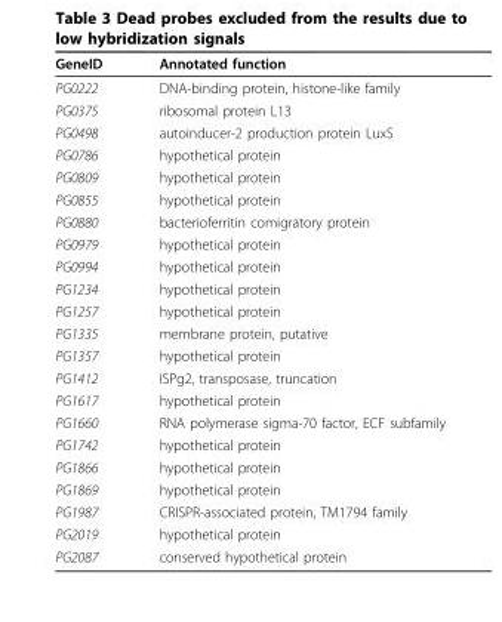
<table><thead><tr><td>GeneID</td><td>Annotated function</td></tr></thead><tbody><tr><td>PG0222</td><td>DNA-binding protein, histone-like family</td></tr><tr><td>PG0375</td><td>ribosomal protein L13</td></tr><tr><td>PG0498</td><td>autoinducer-2 production protein LuxS</td></tr><tr><td>PG0786</td><td>hypothetical protein</td></tr><tr><td>PG0809</td><td>hypothetical protein</td></tr><tr><td>PG0855</td><td>hypothetical protein</td></tr><tr><td>PG0880</td><td>bacterioferritin comigratory protein</td></tr><tr><td>PG0979</td><td>hypothetical protein</td></tr><tr><td>PG0994</td><td>hypothetical protein</td></tr><tr><td>PG1234</td><td>hypothetical protein</td></tr><tr><td>PG1257</td><td>hypothetical protein</td></tr><tr><td>PG1335</td><td>membrane protein, putative</td></tr><tr><td>PG1357</td><td>hypothetical protein</td></tr><tr><td>PG1412</td><td>ISPg2, transposase, truncation</td></tr><tr><td>PG1617</td><td>hypothetical protein</td></tr><tr><td>PG1660</td><td>RNA polymerase sigma-70 factor, ECF subfamily</td></tr><tr><td>PG1742</td><td>hypothetical protein</td></tr><tr><td>PG1866</td><td>hypothetical protein</td></tr><tr><td>PG1869</td><td>hypothetical protein</td></tr><tr><td>PG1987</td><td>CRISPR-associated protein, TM1794 family</td></tr><tr><td>PG2019</td><td>hypothetical protein</td></tr><tr><td>PG2087</td><td>conserved hypothetical protein</td></tr></tbody></table>